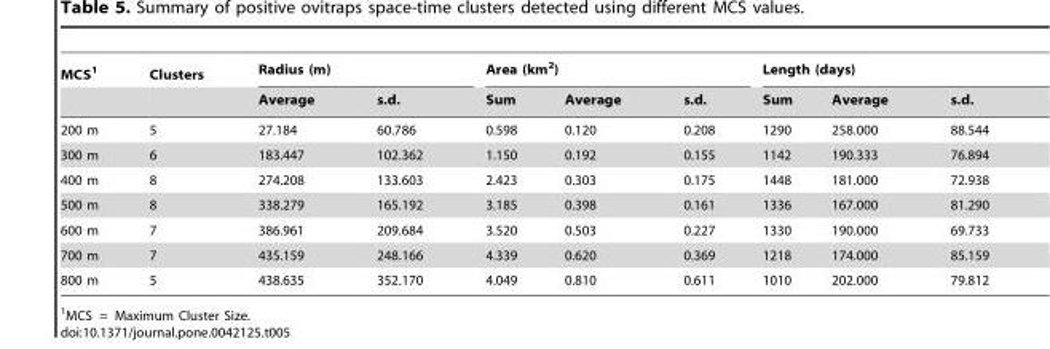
<table><thead><tr><td rowspan="2">MCS<sup>1</sup></td><td rowspan="2">Clusters</td><td colspan="2">Radius (m)</td><td colspan="3">Area (km<sup>2</sup>)</td><td colspan="3">Length (days)</td></tr><tr><td>Average</td><td>s.d.</td><td>Sum</td><td>Average</td><td>s.d.</td><td>Sum</td><td>Average</td><td>s.d.</td></tr></thead><tbody><tr><td>200 m</td><td>5</td><td>27.184</td><td>60.786</td><td>0.598</td><td>0.120</td><td>0.208</td><td>1290</td><td>258.000</td><td>88.544</td></tr><tr><td>300 m</td><td>6</td><td>183.447</td><td>102.362</td><td>1.150</td><td>0.192</td><td>0.155</td><td>1142</td><td>190.333</td><td>76.894</td></tr><tr><td>400 m</td><td>8</td><td>274.208</td><td>133.603</td><td>2.423</td><td>0.303</td><td>0.175</td><td>1448</td><td>181.000</td><td>72.938</td></tr><tr><td>500 m</td><td>8</td><td>338.279</td><td>165.192</td><td>3.185</td><td>0.398</td><td>0.161</td><td>1336</td><td>167.000</td><td>81.290</td></tr><tr><td>600 m</td><td>7</td><td>386.961</td><td>209.684</td><td>3.520</td><td>0.503</td><td>0.227</td><td>1330</td><td>190.000</td><td>69.733</td></tr><tr><td>700 m</td><td>7</td><td>435.159</td><td>248.166</td><td>4.339</td><td>0.620</td><td>0.369</td><td>1218</td><td>174.000</td><td>85.159</td></tr><tr><td>800 m</td><td>5</td><td>438.635</td><td>352.170</td><td>4.049</td><td>0.810</td><td>0.611</td><td>1010</td><td>202.000</td><td>79.812</td></tr></tbody></table>